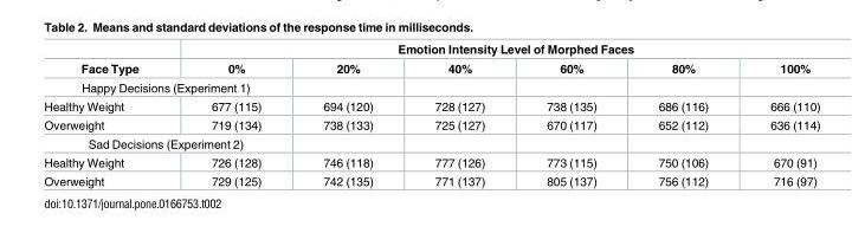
<table><thead><tr><td rowspan="2">Face Type</td><td colspan="6">Emotion Intensity Level of Morphed Faces</td></tr><tr><td>0%</td><td>20%</td><td>40%</td><td>60%</td><td>80%</td><td>100%</td></tr></thead><tbody><tr><td colspan="7">Happy Decisions (Experiment 1)</td></tr><tr><td>Healthy Weight</td><td>677 (115)</td><td>694 (120)</td><td>728 (127)</td><td>738 (135)</td><td>686 (116)</td><td>666 (110)</td></tr><tr><td>Overweight</td><td>719 (134)</td><td>738 (133)</td><td>725 (127)</td><td>670 (117)</td><td>652 (112)</td><td>636 (114)</td></tr><tr><td colspan="7">Sad Decisions (Experiment 2)</td></tr><tr><td>Healthy Weight</td><td>726 (128)</td><td>746 (118)</td><td>777 (126)</td><td>773 (115)</td><td>750 (106)</td><td>670 (91)</td></tr><tr><td>Overweight</td><td>729 (125)</td><td>742 (135)</td><td>771 (137)</td><td>805 (137)</td><td>756 (112)</td><td>716 (97)</td></tr></tbody></table>